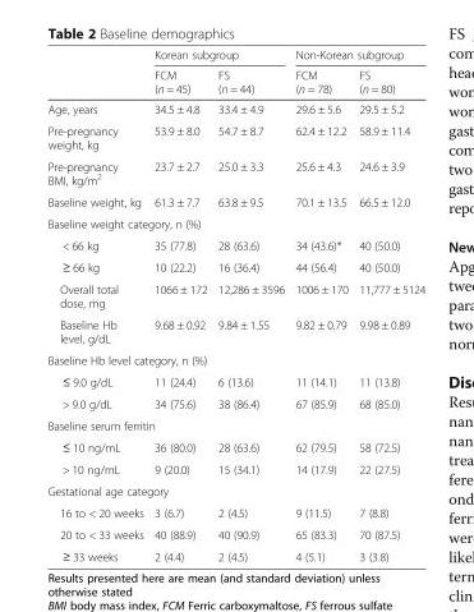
<table><thead><tr><td rowspan="2"></td><td colspan="2">Korean subgroup</td><td colspan="2">Non-Korean subgroup</td></tr><tr><td>FCM (n = 45)</td><td>FS (n = 44)</td><td>FCM (n = 78)</td><td>FS (n = 80)</td></tr></thead><tbody><tr><td>Age, years</td><td>34.5 ± 4.8</td><td>33.4 ± 4.9</td><td>29.6 ± 5.6</td><td>29.5 ± 5.2</td></tr><tr><td>Pre-pregnancy weight, kg</td><td>53.9 ± 8.0</td><td>54.7 ± 8.7</td><td>62.4 ± 12.2</td><td>58.9 ± 11.4</td></tr><tr><td>Pre-pregnancy BMI, kg/m<sup>2</sup></td><td>23.7 ± 2.7</td><td>25.0 ± 3.3</td><td>25.6 ± 4.3</td><td>24.6 ± 3.9</td></tr><tr><td>Baseline weight, kg</td><td>61.3 ± 7.7</td><td>63.8 ± 9.5</td><td>70.1 ± 13.5</td><td>66.5 ± 12.0</td></tr><tr><td colspan="5">Baseline weight category, n (%)</td></tr><tr><td>&lt; 66 kg</td><td>35 (77.8)</td><td>28 (63.6)</td><td>34 (43.6)*</td><td>40 (50.0)</td></tr><tr><td>≥ 66 kg</td><td>10 (22.2)</td><td>16 (36.4)</td><td>44 (56.4)</td><td>40 (50.0)</td></tr><tr><td>Overall total dose, mg</td><td>1066 ± 172</td><td>12,286 ± 3596</td><td>1006 ± 170</td><td>11,777 ± 5124</td></tr><tr><td>Baseline Hb level, g/dL</td><td>9.68 ± 0.92</td><td>9.84 ± 1.55</td><td>9.82 ± 0.79</td><td>9.98 ± 0.89</td></tr><tr><td colspan="5">Baseline Hb level category, n (%)</td></tr><tr><td>≤ 9.0 g/dL</td><td>11 (24.4)</td><td>6 (13.6)</td><td>11 (14.1)</td><td>11 (13.8)</td></tr><tr><td>&gt; 9.0 g/dL</td><td>34 (75.6)</td><td>38 (86.4)</td><td>67 (85.9)</td><td>68 (85.0)</td></tr><tr><td colspan="5">Baseline serum ferritin</td></tr><tr><td>≤ 10 ng/mL</td><td>36 (80.0)</td><td>28 (63.6)</td><td>62 (79.5)</td><td>58 (72.5)</td></tr><tr><td>&gt; 10 ng/mL</td><td>9 (20.0)</td><td>15 (34.1)</td><td>14 (17.9)</td><td>22 (27.5)</td></tr><tr><td colspan="5">Gestational age category</td></tr><tr><td>16 to &lt; 20 weeks</td><td>3 (6.7)</td><td>2 (4.5)</td><td>9 (11.5)</td><td>7 (8.8)</td></tr><tr><td>20 to &lt; 33 weeks</td><td>40 (88.9)</td><td>40 (90.9)</td><td>65 (83.3)</td><td>70 (87.5)</td></tr><tr><td>≥ 33 weeks</td><td>2 (4.4)</td><td>2 (4.5)</td><td>4 (5.1)</td><td>3 (3.8)</td></tr></tbody></table>